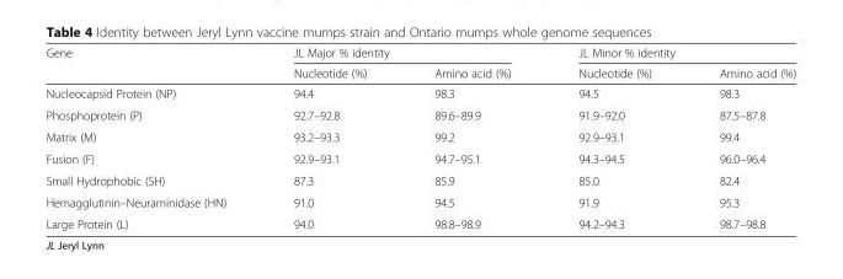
<table><thead><tr><td rowspan="2">Gene</td><td colspan="2">JL Major % identity</td><td colspan="2">JL Minor % identity</td></tr><tr><td>Nucleotide (%)</td><td>Amino acid (%)</td><td>Nucleotide (%)</td><td>Amino acid (%)</td></tr></thead><tbody><tr><td>Nucleocapsid Protein (NP)</td><td>94.4</td><td>98.3</td><td>94.5</td><td>98.3</td></tr><tr><td>Phosphoprotein (P)</td><td>92.7–92.8</td><td>89.6–89.9</td><td>91.9–92.0</td><td>87.5–87.8</td></tr><tr><td>Matrix (M)</td><td>93.2–93.3</td><td>99.2</td><td>92.9–93.1</td><td>99.4</td></tr><tr><td>Fusion (F)</td><td>92.9–93.1</td><td>94.7–95.1</td><td>94.3–94.5</td><td>96.0–96.4</td></tr><tr><td>Small Hydrophobic (SH)</td><td>87.3</td><td>85.9</td><td>85.0</td><td>82.4</td></tr><tr><td>Hemagglutinin–Neuraminidase (HN)</td><td>91.0</td><td>94.5</td><td>91.9</td><td>95.3</td></tr><tr><td>Large Protein (L)</td><td>94.0</td><td>98.8–98.9</td><td>94.2–94.3</td><td>98.7–98.8</td></tr></tbody></table>